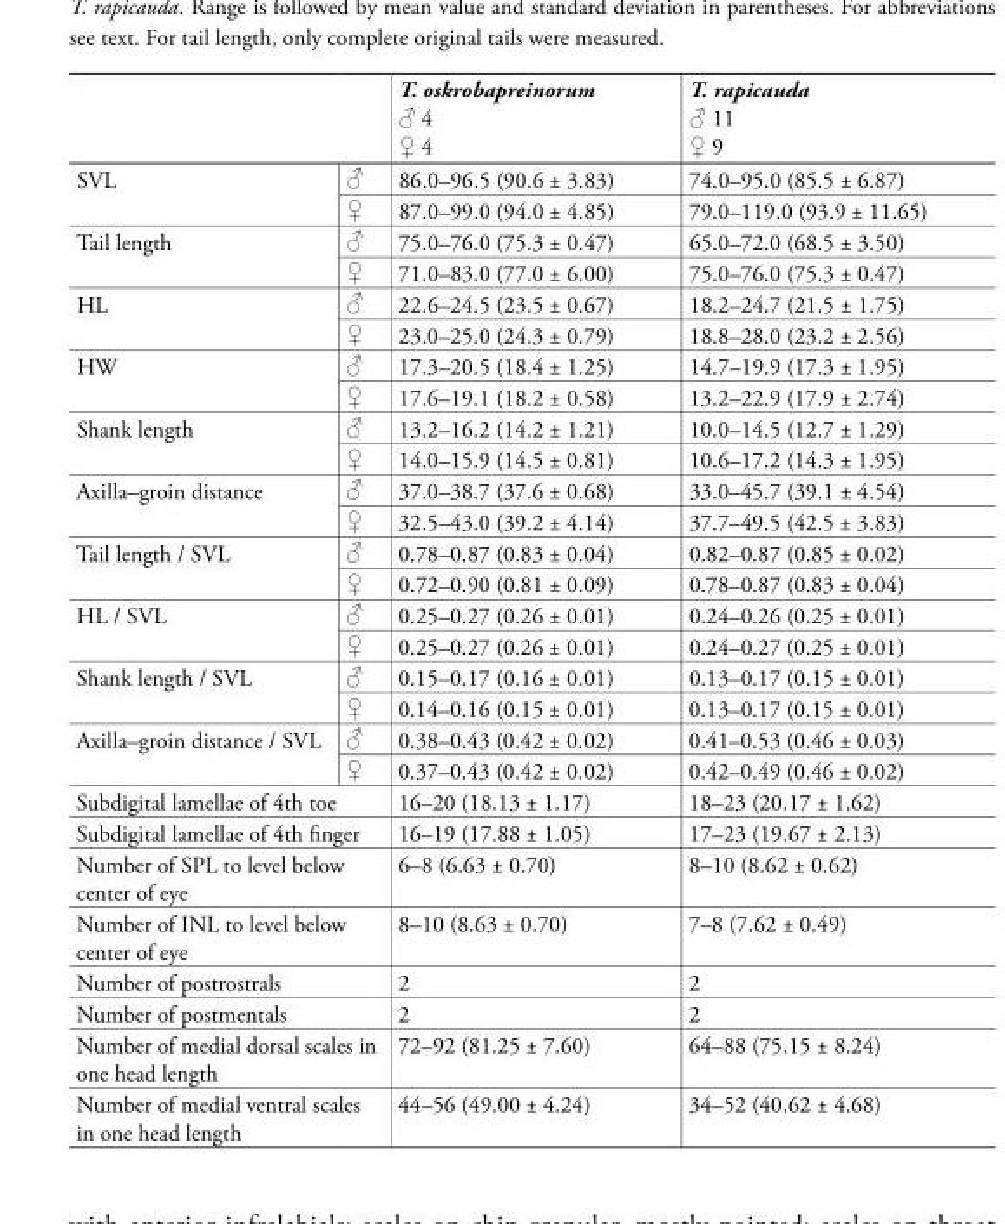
<table><thead><tr><td></td><td></td><td>T. oskrobapreinorum ♂ 4 ♀ 4</td><td>T. rapicauda ♂ 11 ♀ 9</td></tr></thead><tbody><tr><td rowspan="2">SVL</td><td>♂</td><td>86.0–96.5 (90.6 ± 3.83)</td><td>74.0–95.0 (85.5 ± 6.87)</td></tr><tr><td>♀</td><td>87.0–99.0 (94.0 ± 4.85)</td><td>79.0–119.0 (93.9 ± 11.65)</td></tr><tr><td rowspan="2">Tail length</td><td>♂</td><td>75.0–76.0 (75.3 ± 0.47)</td><td>65.0–72.0 (68.5 ± 3.50)</td></tr><tr><td>♀</td><td>71.0–83.0 (77.0 ± 6.00)</td><td>75.0–76.0 (75.3 ± 0.47)</td></tr><tr><td rowspan="2">HL</td><td>♂</td><td>22.6–24.5 (23.5 ± 0.67)</td><td>18.2–24.7 (21.5 ± 1.75)</td></tr><tr><td>♀</td><td>23.0–25.0 (24.3 ± 0.79)</td><td>18.8–28.0 (23.2 ± 2.56)</td></tr><tr><td rowspan="2">HW</td><td>♂</td><td>17.3–20.5 (18.4 ± 1.25)</td><td>14.7–19.9 (17.3 ± 1.95)</td></tr><tr><td>♀</td><td>17.6–19.1 (18.2 ± 0.58)</td><td>13.2–22.9 (17.9 ± 2.74)</td></tr><tr><td rowspan="2">Shank length</td><td>♂</td><td>13.2–16.2 (14.2 ± 1.21)</td><td>10.0–14.5 (12.7 ± 1.29)</td></tr><tr><td>♀</td><td>14.0–15.9 (14.5 ± 0.81)</td><td>10.6–17.2 (14.3 ± 1.95)</td></tr><tr><td rowspan="2">Axilla–groin distance</td><td>♂</td><td>37.0–38.7 (37.6 ± 0.68)</td><td>33.0–45.7 (39.1 ± 4.54)</td></tr><tr><td>♀</td><td>32.5–43.0 (39.2 ± 4.14)</td><td>37.7–49.5 (42.5 ± 3.83)</td></tr><tr><td rowspan="2">Tail length / SVL</td><td>♂</td><td>0.78–0.87 (0.83 ± 0.04)</td><td>0.82–0.87 (0.85 ± 0.02)</td></tr><tr><td>♀</td><td>0.72–0.90 (0.81 ± 0.09)</td><td>0.78–0.87 (0.83 ± 0.04)</td></tr><tr><td rowspan="2">HL / SVL</td><td>♂</td><td>0.25–0.27 (0.26 ± 0.01)</td><td>0.24–0.26 (0.25 ± 0.01)</td></tr><tr><td>♀</td><td>0.25–0.27 (0.26 ± 0.01)</td><td>0.24–0.27 (0.25 ± 0.01)</td></tr><tr><td rowspan="2">Shank length / SVL</td><td>♂</td><td>0.15–0.17 (0.16 ± 0.01)</td><td>0.13–0.17 (0.15 ± 0.01)</td></tr><tr><td>♀</td><td>0.14–0.16 (0.15 ± 0.01)</td><td>0.13–0.17 (0.15 ± 0.01)</td></tr><tr><td rowspan="2">Axilla–groin distance / SVL</td><td>♂</td><td>0.38–0.43 (0.42 ± 0.02)</td><td>0.41–0.53 (0.46 ± 0.03)</td></tr><tr><td>♀</td><td>0.37–0.43 (0.42 ± 0.02)</td><td>0.42–0.49 (0.46 ± 0.02)</td></tr><tr><td colspan="2">Subdigital lamellae of 4th toe</td><td>16–20 (18.13 ± 1.17)</td><td>18–23 (20.17 ± 1.62)</td></tr><tr><td colspan="2">Subdigital lamellae of 4th finger</td><td>16–19 (17.88 ± 1.05)</td><td>17–23 (19.67 ± 2.13)</td></tr><tr><td colspan="2">Number of SPL to level below center of eye</td><td>6–8 (6.63 ± 0.70)</td><td>8–10 (8.62 ± 0.62)</td></tr><tr><td colspan="2">Number of INL to level below center of eye</td><td>8–10 (8.63 ± 0.70)</td><td>7–8 (7.62 ± 0.49)</td></tr><tr><td colspan="2">Number of postrostrals</td><td>2</td><td>2</td></tr><tr><td colspan="2">Number of postmentals</td><td>2</td><td>2</td></tr><tr><td colspan="2">Number of medial dorsal scales in one head length</td><td>72–92 (81.25 ± 7.60)</td><td>64–88 (75.15 ± 8.24)</td></tr><tr><td colspan="2">Number of medial ventral scales in one head length</td><td>44–56 (49.00 ± 4.24)</td><td>34–52 (40.62 ± 4.68)</td></tr></tbody></table>